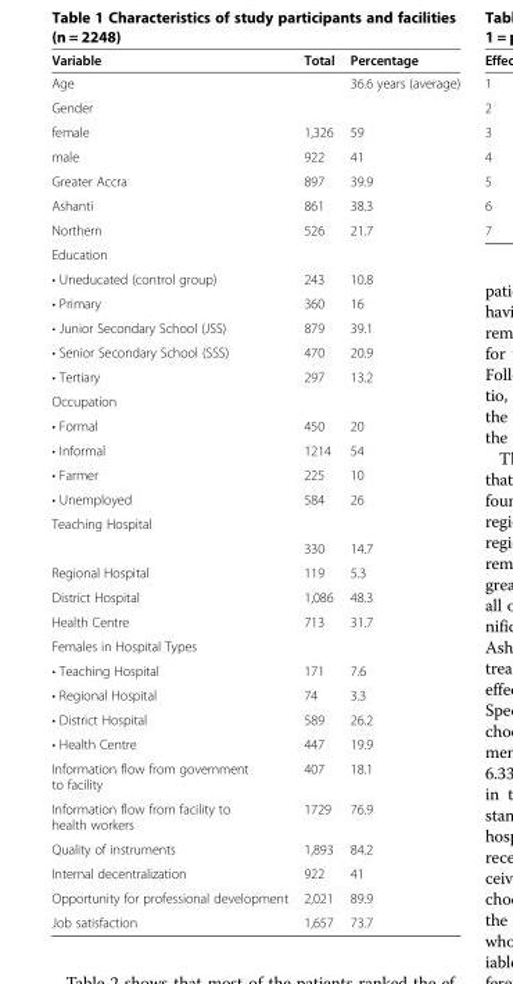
<table><thead><tr><td>Variable</td><td>Total</td><td>Percentage</td></tr></thead><tbody><tr><td>Age</td><td></td><td>36.6 years (average)</td></tr><tr><td colspan="3">Gender</td></tr><tr><td>female</td><td>1,326</td><td>59</td></tr><tr><td>male</td><td>922</td><td>41</td></tr><tr><td>Greater Accra</td><td>897</td><td>39.9</td></tr><tr><td>Ashanti</td><td>861</td><td>38.3</td></tr><tr><td>Northern</td><td>526</td><td>21.7</td></tr><tr><td colspan="3">Education</td></tr><tr><td>• Uneducated (control group)</td><td>243</td><td>10.8</td></tr><tr><td>• Primary</td><td>360</td><td>16</td></tr><tr><td>• Junior Secondary School (JSS)</td><td>879</td><td>39.1</td></tr><tr><td>• Senior Secondary School (SSS)</td><td>470</td><td>20.9</td></tr><tr><td>• Tertiary</td><td>297</td><td>13.2</td></tr><tr><td colspan="3">Occupation</td></tr><tr><td>• Formal</td><td>450</td><td>20</td></tr><tr><td>• Informal</td><td>1214</td><td>54</td></tr><tr><td>• Farmer</td><td>225</td><td>10</td></tr><tr><td>• Unemployed</td><td>584</td><td>26</td></tr><tr><td colspan="3">Teaching Hospital</td></tr><tr><td></td><td>330</td><td>14.7</td></tr><tr><td>Regional Hospital</td><td>119</td><td>5.3</td></tr><tr><td>District Hospital</td><td>1,086</td><td>48.3</td></tr><tr><td>Health Centre</td><td>713</td><td>31.7</td></tr><tr><td colspan="3">Females in Hospital Types</td></tr><tr><td>• Teaching Hospital</td><td>171</td><td>7.6</td></tr><tr><td>• Regional Hospital</td><td>74</td><td>3.3</td></tr><tr><td>• District Hospital</td><td>589</td><td>26.2</td></tr><tr><td>• Health Centre</td><td>447</td><td>19.9</td></tr><tr><td>Information flow from government to facility</td><td>407</td><td>18.1</td></tr><tr><td>Information flow from facility to health workers</td><td>1729</td><td>76.9</td></tr><tr><td>Quality of instruments</td><td>1,893</td><td>84.2</td></tr><tr><td>Internal decentralization</td><td>922</td><td>41</td></tr><tr><td>Opportunity for professional development</td><td>2,021</td><td>89.9</td></tr><tr><td>Job satisfaction</td><td>1,657</td><td>73.7</td></tr></tbody></table>